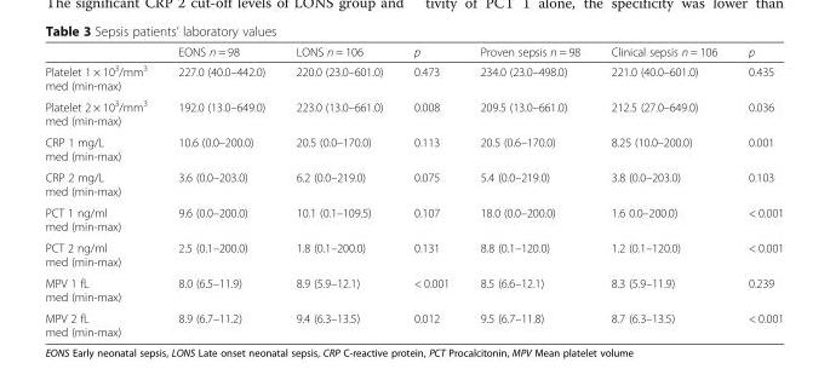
<table><thead><tr><td></td><td>EONS n = 98</td><td>LONS n = 106</td><td>p</td><td>Proven sepsis n = 98</td><td>Clinical sepsis n = 106</td><td>p</td></tr></thead><tbody><tr><td>Platelet 1 × 10<sup>3</sup>/mm<sup>3</sup> med (min-max)</td><td>227.0 (40.0–442.0)</td><td>220.0 (23.0–601.0)</td><td>0.473</td><td>234.0 (23.0–498.0)</td><td>221.0 (40.0–601.0)</td><td>0.435</td></tr><tr><td>Platelet 2 × 10<sup>3</sup>/mm<sup>3</sup> med (min-max)</td><td>192.0 (13.0–649.0)</td><td>223.0 (13.0–661.0)</td><td>0.008</td><td>209.5 (13.0–661.0)</td><td>212.5 (27.0–649.0)</td><td>0.036</td></tr><tr><td>CRP 1 mg/L med (min-max)</td><td>10.6 (0.0–200.0)</td><td>20.5 (0.0–170.0)</td><td>0.113</td><td>20.5 (0.6–170.0)</td><td>8.25 (10.0–200.0)</td><td>0.001</td></tr><tr><td>CRP 2 mg/L med (min-max)</td><td>3.6 (0.0–203.0)</td><td>6.2 (0.0–219.0)</td><td>0.075</td><td>5.4 (0.0–219.0)</td><td>3.8 (0.0–203.0)</td><td>0.103</td></tr><tr><td>PCT 1 ng/ml med (min-max)</td><td>9.6 (0.0–200.0)</td><td>10.1 (0.1–109.5)</td><td>0.107</td><td>18.0 (0.0–200.0)</td><td>1.6 0.0–200.0)</td><td>&lt; 0.001</td></tr><tr><td>PCT 2 ng/ml med (min-max)</td><td>2.5 (0.1–200.0)</td><td>1.8 (0.1–200.0)</td><td>0.131</td><td>8.8 (0.1–120.0)</td><td>1.2 (0.1–120.0)</td><td>&lt; 0.001</td></tr><tr><td>MPV 1 fL med (min-max)</td><td>8.0 (6.5–11.9)</td><td>8.9 (5.9–12.1)</td><td>&lt; 0.001</td><td>8.5 (6.6–12.1)</td><td>8.3 (5.9–11.9)</td><td>0.239</td></tr><tr><td>MPV 2 fL med (min-max)</td><td>8.9 (6.7–11.2)</td><td>9.4 (6.3–13.5)</td><td>0.012</td><td>9.5 (6.7–11.8)</td><td>8.7 (6.3–13.5)</td><td>&lt; 0.001</td></tr></tbody></table>